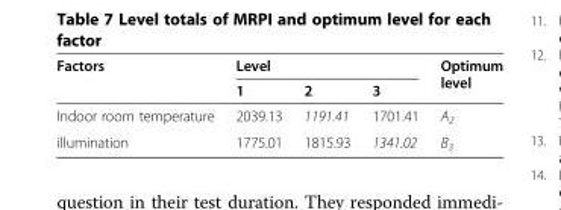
<table><thead><tr><td rowspan="2">Factors</td><td colspan="3">Level</td><td rowspan="2">Optimum level</td></tr><tr><td>1</td><td>2</td><td>3</td></tr></thead><tbody><tr><td>Indoor room temperature</td><td>2039.13</td><td>1191.41</td><td>1701.41</td><td>A<sub>2</sub></td></tr><tr><td>illumination</td><td>1775.01</td><td>1815.93</td><td>1341.02</td><td>B<sub>3</sub></td></tr></tbody></table>